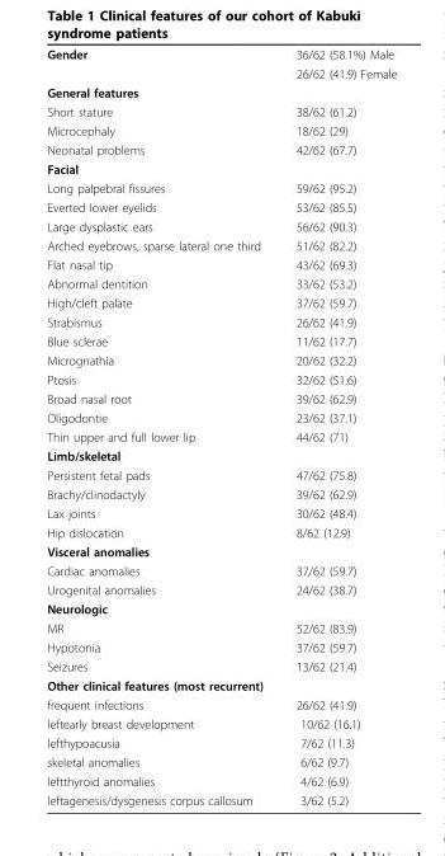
<table><tbody><tr><td rowspan="2">Gender</td><td>36/62 (58.1%) Male</td></tr><tr><td>26/62 (41.9) Female</td></tr><tr><td colspan="2">General features</td></tr><tr><td>Short stature</td><td>38/62 (61.2)</td></tr><tr><td>Microcephaly</td><td>18/62 (29)</td></tr><tr><td>Neonatal problems</td><td>42/62 (67.7)</td></tr><tr><td colspan="2">Facial</td></tr><tr><td>Long palpebral fissures</td><td>59/62 (95.2)</td></tr><tr><td>Everted lower eyelids</td><td>53/62 (85.5)</td></tr><tr><td>Large dysplastic ears</td><td>56/62 (90.3)</td></tr><tr><td>Arched eyebrows, sparse lateral one third</td><td>51/62 (82.2)</td></tr><tr><td>Flat nasal tip</td><td>43/62 (69.3)</td></tr><tr><td>Abnormal dentition</td><td>33/62 (53.2)</td></tr><tr><td>High/cleft palate</td><td>37/62 (59.7)</td></tr><tr><td>Strabismus</td><td>26/62 (41.9)</td></tr><tr><td>Blue sclerae</td><td>11/62 (17.7)</td></tr><tr><td>Micrognathia</td><td>20/62 (32.2)</td></tr><tr><td>Ptosis</td><td>32/62 (51.6)</td></tr><tr><td>Broad nasal root</td><td>39/62 (62.9)</td></tr><tr><td>Oligodontie</td><td>23/62 (37.1)</td></tr><tr><td>Thin upper and full lower lip</td><td>44/62 (71)</td></tr><tr><td colspan="2">Limb/skeletal</td></tr><tr><td>Persistent fetal pads</td><td>47/62 (75.8)</td></tr><tr><td>Brachy/clinodactyly</td><td>39/62 (62.9)</td></tr><tr><td>Lax joints</td><td>30/62 (48.4)</td></tr><tr><td>Hip dislocation</td><td>8/62 (12.9)</td></tr><tr><td colspan="2">Visceral anomalies</td></tr><tr><td>Cardiac anomalies</td><td>37/62 (59.7)</td></tr><tr><td>Urogenital anomalies</td><td>24/62 (38.7)</td></tr><tr><td colspan="2">Neurologic</td></tr><tr><td>MR</td><td>52/62 (83.9)</td></tr><tr><td>Hypotonia</td><td>37/62 (59.7)</td></tr><tr><td>Seizures</td><td>13/62 (21.4)</td></tr><tr><td colspan="2">Other clinical features (most recurrent)</td></tr><tr><td>frequent infections</td><td>26/62 (41.9)</td></tr><tr><td>leftearly breast development</td><td>10/62 (16.1)</td></tr><tr><td>lefthypoacusia</td><td>7/62 (11.3)</td></tr><tr><td>skeletal anomalies</td><td>6/62 (9.7)</td></tr><tr><td>leftthyroid anomalies</td><td>4/62 (6.9)</td></tr><tr><td>leftagenesis/dysgenesis corpus callosum</td><td>3/62 (5.2)</td></tr></tbody></table>